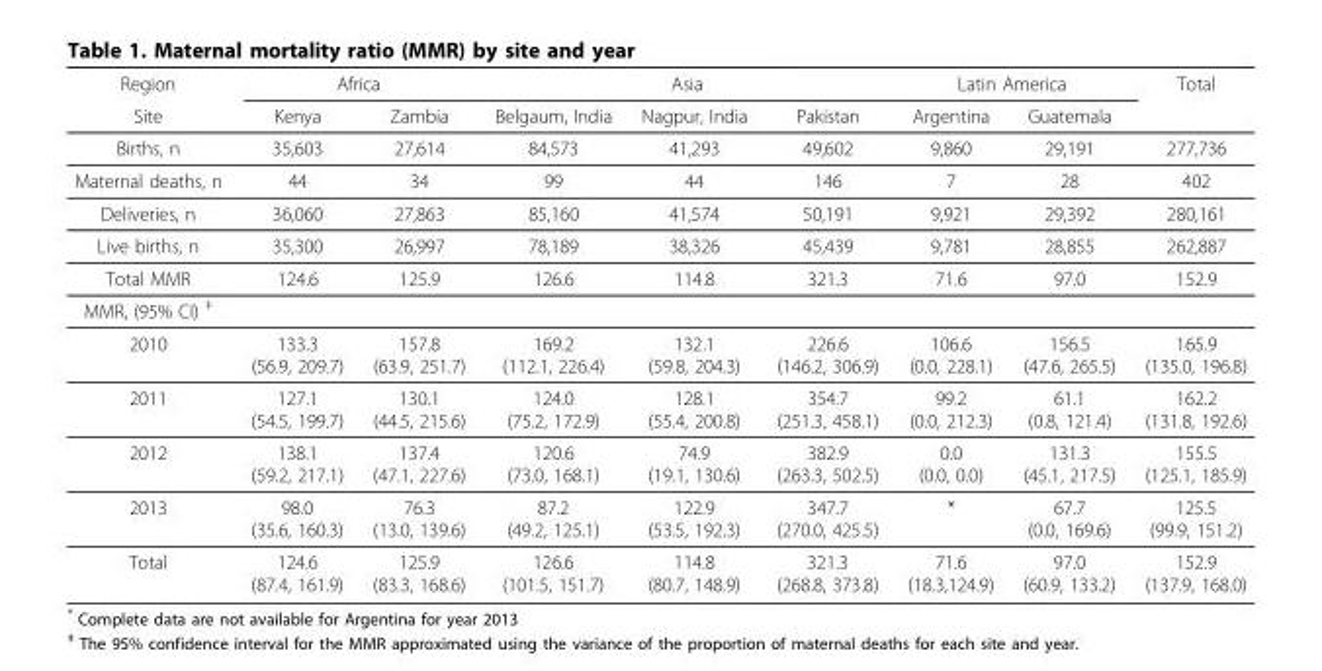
<table><thead><tr><td rowspan="2">Region Site</td><td colspan="2">Africa</td><td colspan="3">Asia</td><td colspan="2">Latin America</td><td rowspan="2">Total</td></tr><tr><td>Kenya</td><td>Zambia</td><td>Belgaum, India</td><td>Nagpur, India</td><td>Pakistan</td><td>Argentina</td><td>Guatemala</td></tr></thead><tbody><tr><td>Births, n</td><td>35,603</td><td>27,614</td><td>84,573</td><td>41,293</td><td>49,602</td><td>9,860</td><td>29,191</td><td>277,736</td></tr><tr><td>Maternal deaths, n</td><td>44</td><td>34</td><td>99</td><td>44</td><td>146</td><td>7</td><td>28</td><td>402</td></tr><tr><td>Deliveries, n</td><td>36,060</td><td>27,863</td><td>85,160</td><td>41,574</td><td>50,191</td><td>9,921</td><td>29,392</td><td>280,161</td></tr><tr><td>Live births, n</td><td>35,300</td><td>26,997</td><td>78,189</td><td>38,326</td><td>45,439</td><td>9,781</td><td>28,855</td><td>262,887</td></tr><tr><td>Total MMR</td><td>124.6</td><td>125.9</td><td>126.6</td><td>114.8</td><td>321.3</td><td>71.6</td><td>97.0</td><td>152.9</td></tr><tr><td colspan="9">MMR, (95% CI) <sup>‡</sup></td></tr><tr><td>2010</td><td>133.3 (56.9, 209.7)</td><td>157.8 (63.9, 251.7)</td><td>169.2 (112.1, 226.4)</td><td>132.1 (59.8, 204.3)</td><td>226.6 (146.2, 306.9)</td><td>106.6 (0.0, 228.1)</td><td>156.5 (47.6, 265.5)</td><td>165.9 (135.0, 196.8)</td></tr><tr><td>2011</td><td>127.1 (54.5, 199.7)</td><td>130.1 (44.5, 215.6)</td><td>124.0 (75.2, 172.9)</td><td>128.1 (55.4, 200.8)</td><td>354.7 (251.3, 458.1)</td><td>99.2 (0.0, 212.3)</td><td>61.1 (0.8, 121.4)</td><td>162.2 (131.8, 192.6)</td></tr><tr><td>2012</td><td>138.1 (59.2, 217.1)</td><td>137.4 (47.1, 227.6)</td><td>120.6 (73.0, 168.1)</td><td>74.9 (19.1, 130.6)</td><td>382.9 (263.3, 502.5)</td><td>0.0 (0.0, 0.0)</td><td>131.3 (45.1, 217.5)</td><td>155.5 (125.1, 185.9)</td></tr><tr><td>2013</td><td>98.0 (35.6, 160.3)</td><td>76.3 (13.0, 139.6)</td><td>87.2 (49.2, 125.1)</td><td>122.9 (53.5, 192.3)</td><td>347.7 (270.0, 425.5)</td><td>*</td><td>67.7 (0.0, 169.6)</td><td>125.5 (99.9, 151.2)</td></tr><tr><td>Total</td><td>124.6 (87.4, 161.9)</td><td>125.9 (83.3, 168.6)</td><td>126.6 (101.5, 151.7)</td><td>114.8 (80.7, 148.9)</td><td>321.3 (268.8, 373.8)</td><td>71.6 (18.3,124.9)</td><td>97.0 (60.9, 133.2)</td><td>152.9 (137.9, 168.0)</td></tr></tbody></table>